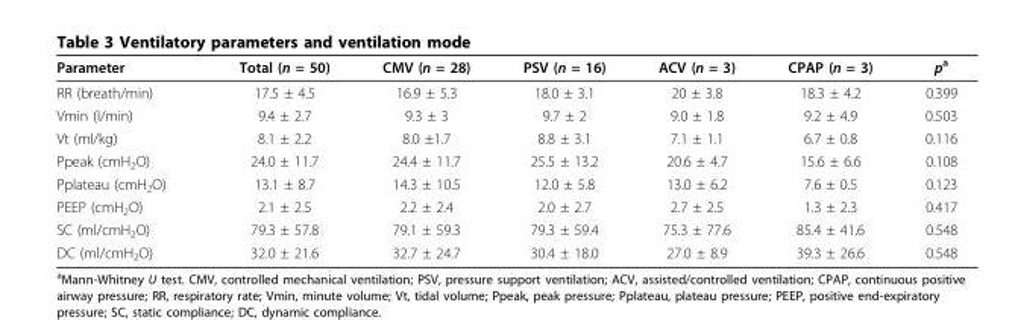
<table><thead><tr><td>Parameter</td><td>Total (n = 50)</td><td>CMV (n = 28)</td><td>PSV (n = 16)</td><td>ACV (n = 3)</td><td>CPAP (n = 3)</td><td>p<sup>a</sup></td></tr></thead><tbody><tr><td>RR (breath/min)</td><td>17.5 ± 4.5</td><td>16.9 ± 5.3</td><td>18.0 ± 3.1</td><td>20 ± 3.8</td><td>18.3 ± 4.2</td><td>0.399</td></tr><tr><td>Vmin (l/min)</td><td>9.4 ± 2.7</td><td>9.3 ± 3</td><td>9.7 ± 2</td><td>9.0 ± 1.8</td><td>9.2 ± 4.9</td><td>0.503</td></tr><tr><td>Vt (ml/kg)</td><td>8.1 ± 2.2</td><td>8.0 ±1.7</td><td>8.8 ± 3.1</td><td>7.1 ± 1.1</td><td>6.7 ± 0.8</td><td>0.116</td></tr><tr><td>Ppeak (cmH<sub>2</sub>O)</td><td>24.0 ± 11.7</td><td>24.4 ± 11.7</td><td>25.5 ± 13.2</td><td>20.6 ± 4.7</td><td>15.6 ± 6.6</td><td>0.108</td></tr><tr><td>Pplateau (cmH<sub>2</sub>O)</td><td>13.1 ± 8.7</td><td>14.3 ± 10.5</td><td>12.0 ± 5.8</td><td>13.0 ± 6.2</td><td>7.6 ± 0.5</td><td>0.123</td></tr><tr><td>PEEP (cmH<sub>2</sub>O)</td><td>2.1 ± 2.5</td><td>2.2 ± 2.4</td><td>2.0 ± 2.7</td><td>2.7 ± 2.5</td><td>1.3 ± 2.3</td><td>0.417</td></tr><tr><td>SC (ml/cmH<sub>2</sub>O)</td><td>79.3 ± 57.8</td><td>79.1 ± 59.3</td><td>79.3 ± 59.4</td><td>75.3 ± 77.6</td><td>85.4 ± 41.6</td><td>0.548</td></tr><tr><td>DC (ml/cmH<sub>2</sub>O)</td><td>32.0 ± 21.6</td><td>32.7 ± 24.7</td><td>30.4 ± 18.0</td><td>27.0 ± 8.9</td><td>39.3 ± 26.6</td><td>0.548</td></tr></tbody></table>